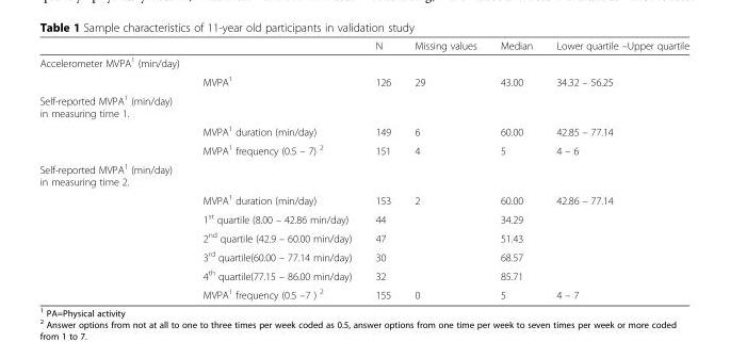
<table><thead><tr><td></td><td></td><td>N</td><td>Missing values</td><td>Median</td><td>Lower quartile –Upper quartile</td></tr></thead><tbody><tr><td colspan="6">Accelerometer MVPA<sup>1</sup> (min/day)</td></tr><tr><td></td><td>MVPA<sup>1</sup></td><td>126</td><td>29</td><td>43.00</td><td>34.32 – 56.25</td></tr><tr><td colspan="6">Self-reported MVPA<sup>1</sup> (min/day) in measuring time 1.</td></tr><tr><td></td><td>MVPA<sup>1</sup> duration (min/day)</td><td>149</td><td>6</td><td>60.00</td><td>42.85 – 77.14</td></tr><tr><td></td><td>MVPA<sup>1</sup> frequency (0.5 – 7) <sup>2</sup></td><td>151</td><td>4</td><td>5</td><td>4 – 6</td></tr><tr><td colspan="6">Self-reported MVPA<sup>1</sup> (min/day) in measuring time 2.</td></tr><tr><td></td><td>MVPA<sup>1</sup> duration (min/day)</td><td>153</td><td>2</td><td>60.00</td><td>42.86 – 77.14</td></tr><tr><td></td><td>1<sup>st</sup> quartile (8.00 – 42.86 min/day)</td><td>44</td><td></td><td>34.29</td><td></td></tr><tr><td></td><td>2<sup>nd</sup> quartile (42.9 – 60.00 min/day)</td><td>47</td><td></td><td>51.43</td><td></td></tr><tr><td></td><td>3<sup>rd</sup> quartile(60.00 – 77.14 min/day)</td><td>30</td><td></td><td>68.57</td><td></td></tr><tr><td></td><td>4<sup>th</sup> quartile(77.15 – 86.00 min/day)</td><td>32</td><td></td><td>85.71</td><td></td></tr><tr><td></td><td>MVPA<sup>1</sup> frequency (0.5 –7 ) <sup>2</sup></td><td>155</td><td>0</td><td>5</td><td>4 – 7</td></tr></tbody></table>